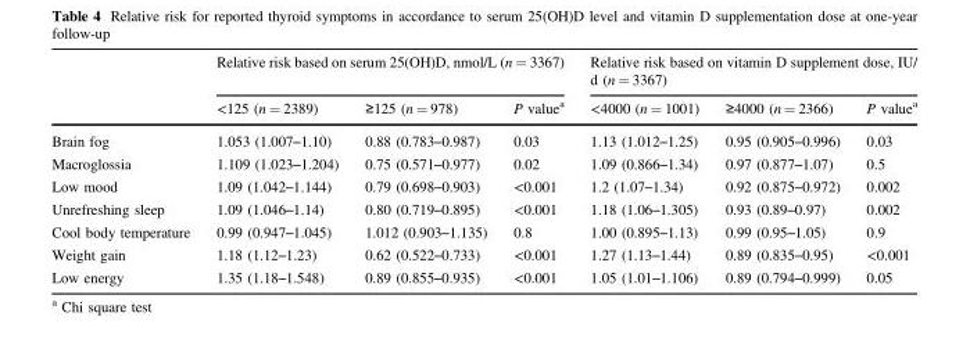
<table><thead><tr><td rowspan="2"></td><td colspan="3">Relative risk based on serum 25(OH)D, nmol/L (n = 3367)</td><td colspan="3">Relative risk based on vitamin D supplement dose, IU/ d (n = 3367)</td></tr><tr><td>&lt;125 (n = 2389)</td><td>≥125 (n = 978)</td><td>P value<sup>a</sup></td><td>&lt;4000 (n = 1001)</td><td>≥4000 (n = 2366)</td><td>P value<sup>a</sup></td></tr></thead><tbody><tr><td>Brain fog</td><td>1.053 (1.007–1.10)</td><td>0.88 (0.783–0.987)</td><td>0.03</td><td>1.13 (1.012–1.25)</td><td>0.95 (0.905–0.996)</td><td>0.03</td></tr><tr><td>Macroglossia</td><td>1.109 (1.023–1.204)</td><td>0.75 (0.571–0.977)</td><td>0.02</td><td>1.09 (0.866–1.34)</td><td>0.97 (0.877–1.07)</td><td>0.5</td></tr><tr><td>Low mood</td><td>1.09 (1.042–1.144)</td><td>0.79 (0.698–0.903)</td><td>&lt;0.001</td><td>1.2 (1.07–1.34)</td><td>0.92 (0.875–0.972)</td><td>0.002</td></tr><tr><td>Unrefreshing sleep</td><td>1.09 (1.046–1.14)</td><td>0.80 (0.719–0.895)</td><td>&lt;0.001</td><td>1.18 (1.06–1.305)</td><td>0.93 (0.89–0.97)</td><td>0.002</td></tr><tr><td>Cool body temperature</td><td>0.99 (0.947–1.045)</td><td>1.012 (0.903–1.135)</td><td>0.8</td><td>1.00 (0.895–1.13)</td><td>0.99 (0.95–1.05)</td><td>0.9</td></tr><tr><td>Weight gain</td><td>1.18 (1.12–1.23)</td><td>0.62 (0.522–0.733)</td><td>&lt;0.001</td><td>1.27 (1.13–1.44)</td><td>0.89 (0.835–0.95)</td><td>&lt;0.001</td></tr><tr><td>Low energy</td><td>1.35 (1.18–1.548)</td><td>0.89 (0.855–0.935)</td><td>&lt;0.001</td><td>1.05 (1.01–1.106)</td><td>0.89 (0.794–0.999)</td><td>0.05</td></tr></tbody></table>